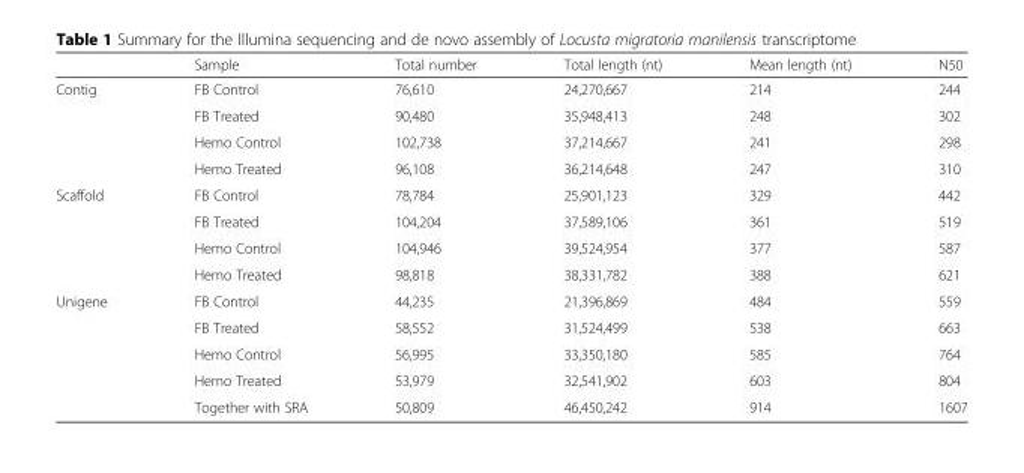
<table><thead><tr><td></td><td>Sample</td><td>Total number</td><td>Total length (nt)</td><td>Mean length (nt)</td><td>N50</td></tr></thead><tbody><tr><td rowspan="4">Contig</td><td>FB Control</td><td>76,610</td><td>24,270,667</td><td>214</td><td>244</td></tr><tr><td>FB Treated</td><td>90,480</td><td>35,948,413</td><td>248</td><td>302</td></tr><tr><td>Hemo Control</td><td>102,738</td><td>37,214,667</td><td>241</td><td>298</td></tr><tr><td>Hemo Treated</td><td>96,108</td><td>36,214,648</td><td>247</td><td>310</td></tr><tr><td rowspan="4">Scaffold</td><td>FB Control</td><td>78,784</td><td>25,901,123</td><td>329</td><td>442</td></tr><tr><td>FB Treated</td><td>104,204</td><td>37,589,106</td><td>361</td><td>519</td></tr><tr><td>Hemo Control</td><td>104,946</td><td>39,524,954</td><td>377</td><td>587</td></tr><tr><td>Hemo Treated</td><td>98,818</td><td>38,331,782</td><td>388</td><td>621</td></tr><tr><td rowspan="5">Unigene</td><td>FB Control</td><td>44,235</td><td>21,396,869</td><td>484</td><td>559</td></tr><tr><td>FB Treated</td><td>58,552</td><td>31,524,499</td><td>538</td><td>663</td></tr><tr><td>Hemo Control</td><td>56,995</td><td>33,350,180</td><td>585</td><td>764</td></tr><tr><td>Hemo Treated</td><td>53,979</td><td>32,541,902</td><td>603</td><td>804</td></tr><tr><td>Together with SRA</td><td>50,809</td><td>46,450,242</td><td>914</td><td>1607</td></tr></tbody></table>